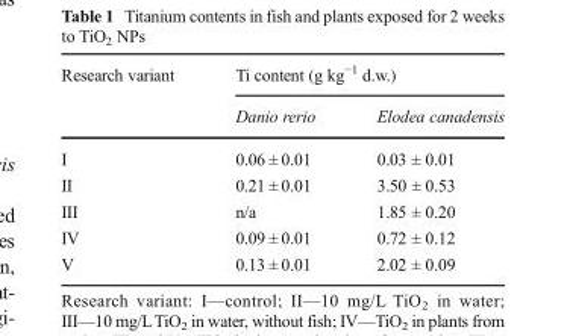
<table><thead><tr><td rowspan="2">Research variant</td><td colspan="2">Ti content (g kg<sup>−1</sup> d.w.)</td></tr><tr><td>Danio rerio</td><td>Elodea canadensis</td></tr></thead><tbody><tr><td>I</td><td>0.06 ± 0.01</td><td>0.03 ± 0.01</td></tr><tr><td>II</td><td>0.21 ± 0.01</td><td>3.50 ± 0.53</td></tr><tr><td>III</td><td>n/a</td><td>1.85 ± 0.20</td></tr><tr><td>IV</td><td>0.09 ± 0.01</td><td>0.72 ± 0.12</td></tr><tr><td>V</td><td>0.13 ± 0.01</td><td>2.02 ± 0.09</td></tr></tbody></table>